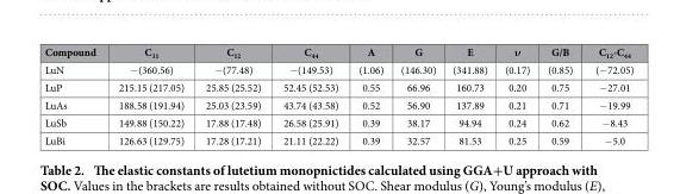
<table><thead><tr><td>Compound</td><td>C<sub>11</sub></td><td>C<sub>12</sub></td><td>C<sub>44</sub></td><td>A</td><td>G</td><td>E</td><td>ν</td><td>G/B</td><td>C<sub>12</sub>-C<sub>44</sub></td></tr></thead><tbody><tr><td>LuN</td><td>−(360.56)</td><td>−(77.48)</td><td>−(149.53)</td><td>(1.06)</td><td>(146.30)</td><td>(341.88)</td><td>(0.17)</td><td>(0.85)</td><td>(− 72.05)</td></tr><tr><td>LuP</td><td>215.15 (217.05)</td><td>25.85 (25.52)</td><td>52.45 (52.53)</td><td>0.55</td><td>66.96</td><td>160.73</td><td>0.20</td><td>0.75</td><td>− 27.01</td></tr><tr><td>LuAs</td><td>188.58 (191.94)</td><td>25.03 (23.59)</td><td>43.74 (43.58)</td><td>0.52</td><td>56.90</td><td>137.89</td><td>0.21</td><td>0.71</td><td>− 19.99</td></tr><tr><td>LuSb</td><td>149.88 (150.22)</td><td>17.88 (17.48)</td><td>26.58 (25.91)</td><td>0.39</td><td>38.17</td><td>94.94</td><td>0.24</td><td>0.62</td><td>− 8.43</td></tr><tr><td>LuBi</td><td>126.63 (129.75)</td><td>17.28 (17.21)</td><td>21.11 (22.22)</td><td>0.39</td><td>32.57</td><td>81.53</td><td>0.25</td><td>0.59</td><td>− 5.0</td></tr></tbody></table>